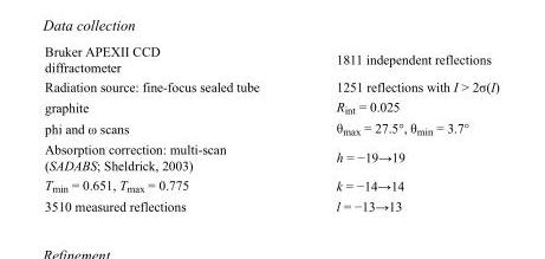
<table><tbody><tr><td>Bruker APEXII CCD diffractometer</td><td>1811 independent reflections</td></tr><tr><td>Radiation source: fine-focus sealed tube</td><td>1251 reflections with I &gt; 2σ(I)</td></tr><tr><td>graphite</td><td>R<sub>int</sub> = 0.025</td></tr><tr><td>phi and ω scans</td><td>θ<sub>max</sub> = 27.5°, θ<sub>min</sub> = 3.7°</td></tr><tr><td>Absorption correction: multi-scan (SADABS; Sheldrick, 2003)</td><td>h = −19→19</td></tr><tr><td>T<sub>min</sub> = 0.651, T<sub>max</sub> = 0.775</td><td>k = −14→14</td></tr><tr><td>3510 measured reflections</td><td>l = −13→13</td></tr></tbody></table>